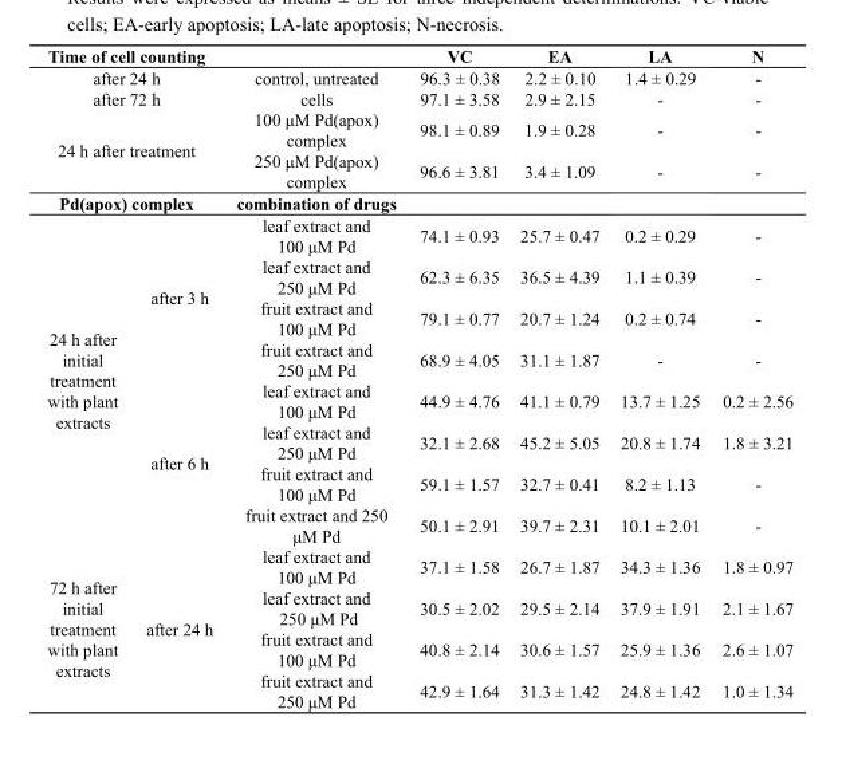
<table><thead><tr><td colspan="2">Time of cell counting</td><td></td><td>VC</td><td>EA</td><td>LA</td><td>N</td></tr></thead><tbody><tr><td colspan="2">after 24 h</td><td rowspan="2">control, untreated cells</td><td>96.3 ± 0.38</td><td>2.2 ± 0.10</td><td>1.4 ± 0.29</td><td>-</td></tr><tr><td colspan="2">after 72 h</td><td>97.1 ± 3.58</td><td>2.9 ± 2.15</td><td>-</td><td>-</td></tr><tr><td rowspan="2" colspan="2">24 h after treatment</td><td>100 μM Pd(apox) complex</td><td>98.1 ± 0.89</td><td>1.9 ± 0.28</td><td>-</td><td>-</td></tr><tr><td>250 μM Pd(apox) complex</td><td>96.6 ± 3.81</td><td>3.4 ± 1.09</td><td>-</td><td>-</td></tr><tr><td colspan="2">Pd(apox) complex</td><td>combination of drugs</td><td></td><td></td><td></td><td></td></tr><tr><td rowspan="8">24 h after initial treatment with plant extracts</td><td rowspan="4">after 3 h</td><td>leaf extract and 100 μM Pd</td><td>74.1 ± 0.93</td><td>25.7 ± 0.47</td><td>0.2 ± 0.29</td><td>-</td></tr><tr><td>leaf extract and 250 μM Pd</td><td>62.3 ± 6.35</td><td>36.5 ± 4.39</td><td>1.1 ± 0.39</td><td>-</td></tr><tr><td>fruit extract and 100 μM Pd</td><td>79.1 ± 0.77</td><td>20.7 ± 1.24</td><td>0.2 ± 0.74</td><td>-</td></tr><tr><td>fruit extract and 250 μM Pd</td><td>68.9 ± 4.05</td><td>31.1 ± 1.87</td><td>-</td><td>-</td></tr><tr><td rowspan="4">after 6 h</td><td>leaf extract and 100 μM Pd</td><td>44.9 ± 4.76</td><td>41.1 ± 0.79</td><td>13.7 ± 1.25</td><td>0.2 ± 2.56</td></tr><tr><td>leaf extract and 250 μM Pd</td><td>32.1 ± 2.68</td><td>45.2 ± 5.05</td><td>20.8 ± 1.74</td><td>1.8 ± 3.21</td></tr><tr><td>fruit extract and 100 μM Pd</td><td>59.1 ± 1.57</td><td>32.7 ± 0.41</td><td>8.2 ± 1.13</td><td>-</td></tr><tr><td>fruit extract and 250 μM Pd</td><td>50.1 ± 2.91</td><td>39.7 ± 2.31</td><td>10.1 ± 2.01</td><td>-</td></tr><tr><td rowspan="4">72 h after initial treatment with plant extracts</td><td rowspan="4">after 24 h</td><td>leaf extract and 100 μM Pd</td><td>37.1 ± 1.58</td><td>26.7 ± 1.87</td><td>34.3 ± 1.36</td><td>1.8 ± 0.97</td></tr><tr><td>leaf extract and 250 μM Pd</td><td>30.5 ± 2.02</td><td>29.5 ± 2.14</td><td>37.9 ± 1.91</td><td>2.1 ± 1.67</td></tr><tr><td>fruit extract and 100 μM Pd</td><td>40.8 ± 2.14</td><td>30.6 ± 1.57</td><td>25.9 ± 1.36</td><td>2.6 ± 1.07</td></tr><tr><td>fruit extract and 250 μM Pd</td><td>42.9 ± 1.64</td><td>31.3 ± 1.42</td><td>24.8 ± 1.42</td><td>1.0 ± 1.34</td></tr></tbody></table>